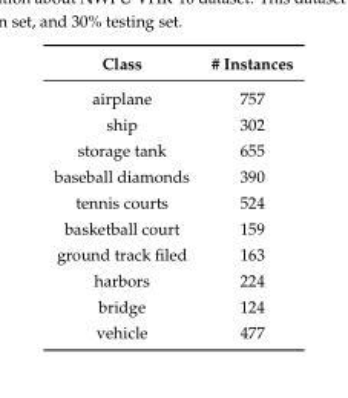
<table><thead><tr><td>Class</td><td># Instances</td></tr></thead><tbody><tr><td>airplane</td><td>757</td></tr><tr><td>ship</td><td>302</td></tr><tr><td>storage tank</td><td>655</td></tr><tr><td>baseball diamonds</td><td>390</td></tr><tr><td>tennis courts</td><td>524</td></tr><tr><td>basketball court</td><td>159</td></tr><tr><td>ground track filed</td><td>163</td></tr><tr><td>harbors</td><td>224</td></tr><tr><td>bridge</td><td>124</td></tr><tr><td>vehicle</td><td>477</td></tr></tbody></table>